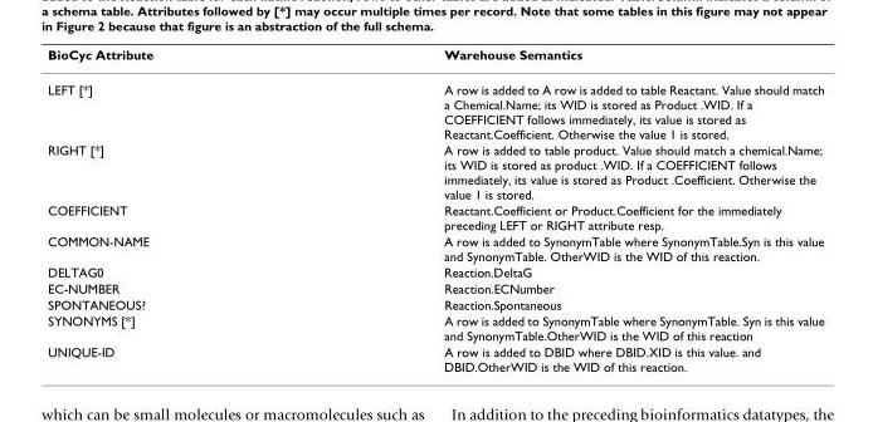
<table><thead><tr><td>BioCyc Attribute</td><td>Warehouse Semantics</td></tr></thead><tbody><tr><td>LEFT [*]</td><td>A row is added to A row is added to table Reactant. Value should match a Chemical.Name; its WID is stored as Product .WID. If a COEFFICIENT follows immediately, its value is stored as Reactant.Coefficient. Otherwise the value 1 is stored.</td></tr><tr><td>RIGHT [*]</td><td>A row is added to table product. Value should match a chemical.Name; its WID is stored as product .WID. If a COEFFICIENT follows immediately, its value is stored as Product .Coefficient. Otherwise the value 1 is stored.</td></tr><tr><td>COEFFICIENT</td><td>Reactant.Coefficient or Product.Coefficient for the immediately preceding LEFT or RIGHT attribute resp.</td></tr><tr><td>COMMON-NAME</td><td>A row is added to SynonymTable where SynonymTable.Syn is this value and SynonymTable. OtherWID is the WID of this reaction.</td></tr><tr><td>DELTAG0</td><td>Reaction.DeltaG</td></tr><tr><td>EC-NUMBER</td><td>Reaction.ECNumber</td></tr><tr><td>SPONTANEOUS?</td><td>Reaction.Spontaneous</td></tr><tr><td>SYNONYMS [*]</td><td>A row is added to SynonymTable where SynonymTable. Syn is this value and SynonymTable.OtherWID is the WID of this reaction</td></tr><tr><td>UNIQUE-ID</td><td>A row is added to DBID where DBID.XID is this value. and DBID.OtherWID is the WID of this reaction.</td></tr></tbody></table>